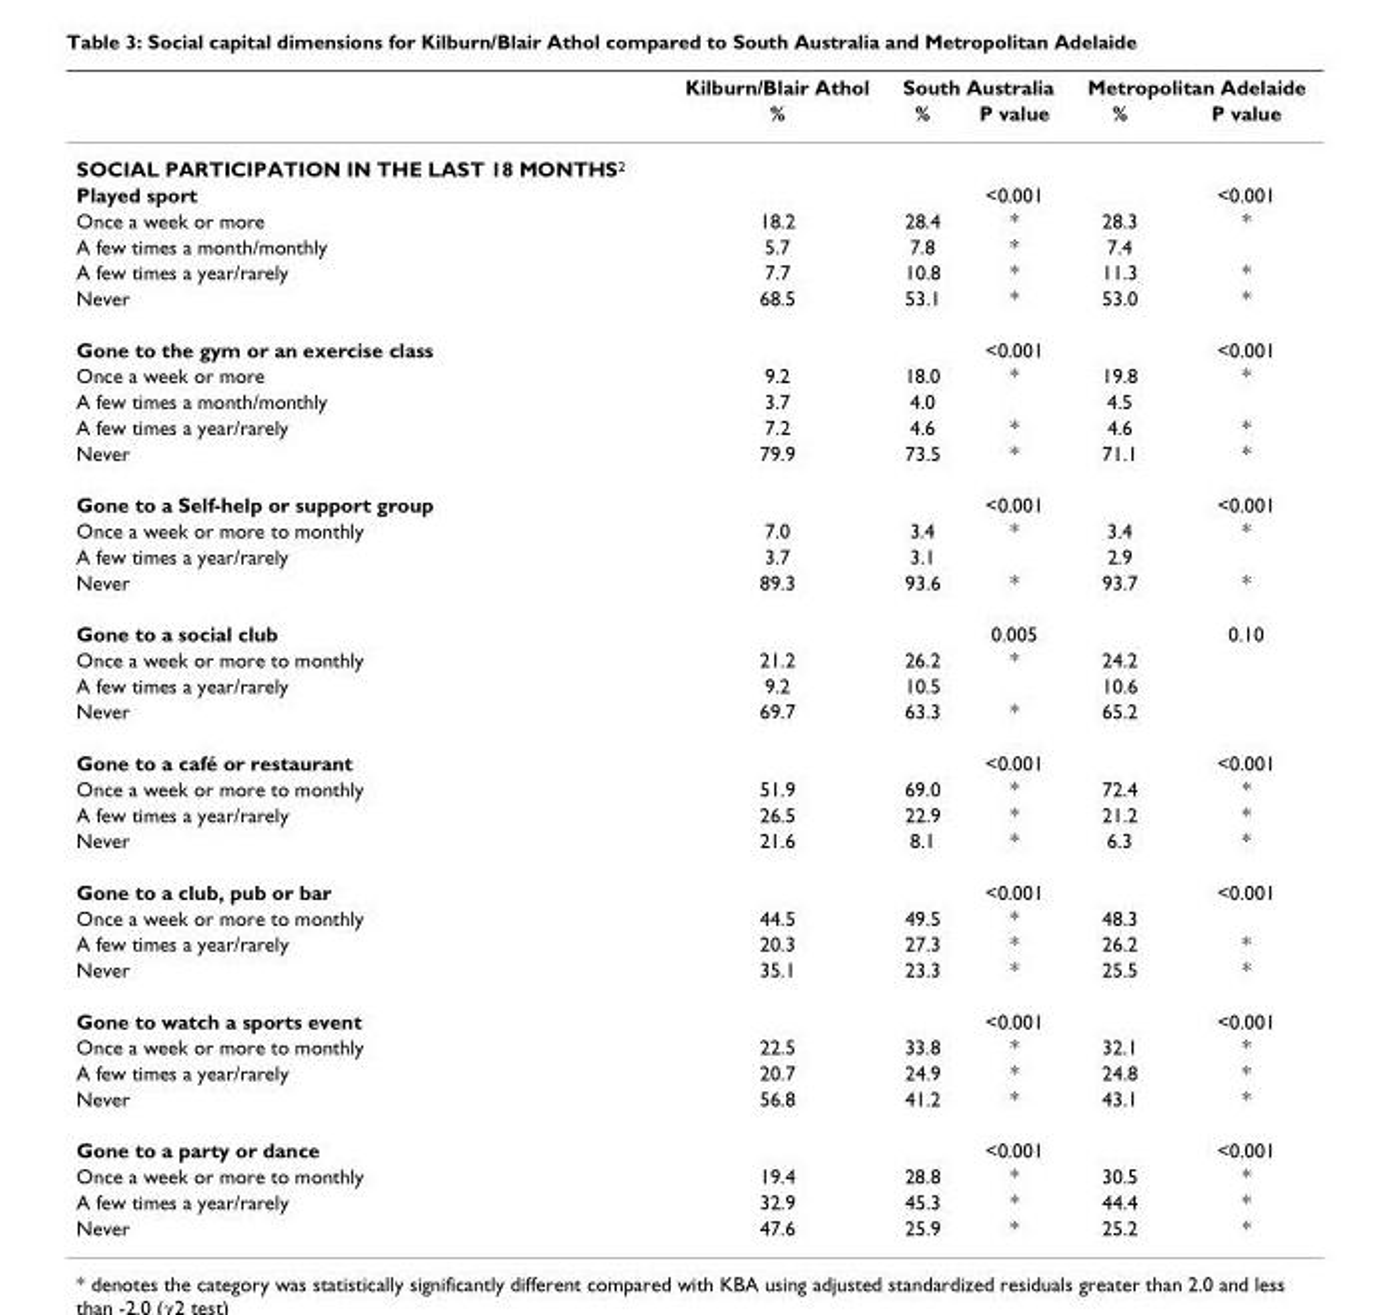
<table><thead><tr><td rowspan="2"></td><td rowspan="2">Kilburn/Blair Athol %</td><td colspan="2">South Australia</td><td colspan="2">Metropolitan Adelaide</td></tr><tr><td>%</td><td>P value</td><td>%</td><td>P value</td></tr></thead><tbody><tr><td colspan="6">SOCIAL PARTICIPATION IN THE LAST 18 MONTHS<sup>2</sup></td></tr><tr><td>Played sport</td><td></td><td></td><td>&lt;0.001</td><td></td><td>&lt;0.001</td></tr><tr><td>Once a week or more</td><td>18.2</td><td>28.4</td><td>*</td><td>28.3</td><td>*</td></tr><tr><td>A few times a month/monthly</td><td>5.7</td><td>7.8</td><td>*</td><td>7.4</td><td></td></tr><tr><td>A few times a year/rarely</td><td>7.7</td><td>10.8</td><td>*</td><td>11.3</td><td>*</td></tr><tr><td>Never</td><td>68.5</td><td>53.1</td><td>*</td><td>53.0</td><td>*</td></tr><tr><td>Gone to the gym or an exercise class</td><td></td><td></td><td>&lt;0.001</td><td></td><td>&lt;0.001</td></tr><tr><td>Once a week or more</td><td>9.2</td><td>18.0</td><td>*</td><td>19.8</td><td>*</td></tr><tr><td>A few times a month/monthly</td><td>3.7</td><td>4.0</td><td></td><td>4.5</td><td></td></tr><tr><td>A few times a year/rarely</td><td>7.2</td><td>4.6</td><td>*</td><td>4.6</td><td>*</td></tr><tr><td>Never</td><td>79.9</td><td>73.5</td><td>*</td><td>71.1</td><td>*</td></tr><tr><td>Gone to a Self-help or support group</td><td></td><td></td><td>&lt;0.001</td><td></td><td>&lt;0.001</td></tr><tr><td>Once a week or more to monthly</td><td>7.0</td><td>3.4</td><td>*</td><td>3.4</td><td>*</td></tr><tr><td>A few times a year/rarely</td><td>3.7</td><td>3.1</td><td></td><td>2.9</td><td></td></tr><tr><td>Never</td><td>89.3</td><td>93.6</td><td>*</td><td>93.7</td><td>*</td></tr><tr><td>Gone to a social club</td><td></td><td></td><td>0.005</td><td></td><td>0.10</td></tr><tr><td>Once a week or more to monthly</td><td>21.2</td><td>26.2</td><td>*</td><td>24.2</td><td></td></tr><tr><td>A few times a year/rarely</td><td>9.2</td><td>10.5</td><td></td><td>10.6</td><td></td></tr><tr><td>Never</td><td>69.7</td><td>63.3</td><td>*</td><td>65.2</td><td></td></tr><tr><td>Gone to a café or restaurant</td><td></td><td></td><td>&lt;0.001</td><td></td><td>&lt;0.001</td></tr><tr><td>Once a week or more to monthly</td><td>51.9</td><td>69.0</td><td>*</td><td>72.4</td><td>*</td></tr><tr><td>A few times a year/rarely</td><td>26.5</td><td>22.9</td><td>*</td><td>21.2</td><td>*</td></tr><tr><td>Never</td><td>21.6</td><td>8.1</td><td>*</td><td>6.3</td><td>*</td></tr><tr><td>Gone to a club, pub or bar</td><td></td><td></td><td>&lt;0.001</td><td></td><td>&lt;0.001</td></tr><tr><td>Once a week or more to monthly</td><td>44.5</td><td>49.5</td><td>*</td><td>48.3</td><td></td></tr><tr><td>A few times a year/rarely</td><td>20.3</td><td>27.3</td><td>*</td><td>26.2</td><td>*</td></tr><tr><td>Never</td><td>35.1</td><td>23.3</td><td>*</td><td>25.5</td><td>*</td></tr><tr><td>Gone to watch a sports event</td><td></td><td></td><td>&lt;0.001</td><td></td><td>&lt;0.001</td></tr><tr><td>Once a week or more to monthly</td><td>22.5</td><td>33.8</td><td>*</td><td>32.1</td><td>*</td></tr><tr><td>A few times a year/rarely</td><td>20.7</td><td>24.9</td><td>*</td><td>24.8</td><td>*</td></tr><tr><td>Never</td><td>56.8</td><td>41.2</td><td>*</td><td>43.1</td><td>*</td></tr><tr><td>Gone to a party or dance</td><td></td><td></td><td>&lt;0.001</td><td></td><td>&lt;0.001</td></tr><tr><td>Once a week or more to monthly</td><td>19.4</td><td>28.8</td><td>*</td><td>30.5</td><td>*</td></tr><tr><td>A few times a year/rarely</td><td>32.9</td><td>45.3</td><td>*</td><td>44.4</td><td>*</td></tr><tr><td>Never</td><td>47.6</td><td>25.9</td><td>*</td><td>25.2</td><td>*</td></tr></tbody></table>